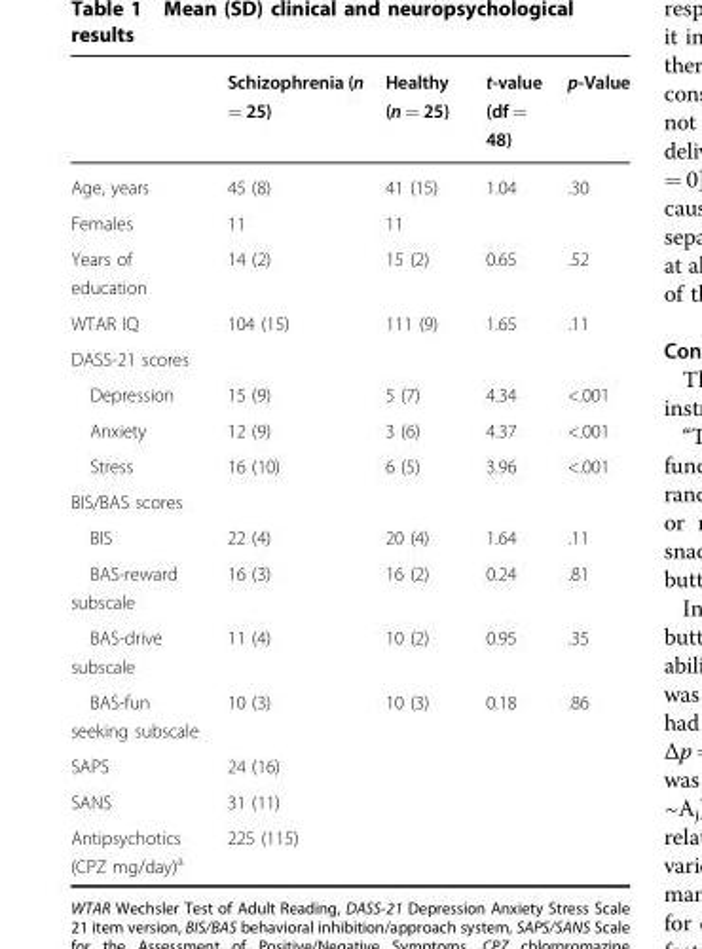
<table><thead><tr><td></td><td>Schizophrenia (n = 25)</td><td>Healthy (n = 25)</td><td>t-value (df = 48)</td><td>p-Value</td></tr></thead><tbody><tr><td>Age, years</td><td>45 (8)</td><td>41 (15)</td><td>1.04</td><td>.30</td></tr><tr><td>Females</td><td>11</td><td>11</td><td></td><td></td></tr><tr><td>Years of education</td><td>14 (2)</td><td>15 (2)</td><td>0.65</td><td>.52</td></tr><tr><td>WTAR IQ</td><td>104 (15)</td><td>111 (9)</td><td>1.65</td><td>.11</td></tr><tr><td colspan="5">DASS-21 scores</td></tr><tr><td>Depression</td><td>15 (9)</td><td>5 (7)</td><td>4.34</td><td>&lt;.001</td></tr><tr><td>Anxiety</td><td>12 (9)</td><td>3 (6)</td><td>4.37</td><td>&lt;.001</td></tr><tr><td>Stress</td><td>16 (10)</td><td>6 (5)</td><td>3.96</td><td>&lt;.001</td></tr><tr><td colspan="5">BIS/BAS scores</td></tr><tr><td>BIS</td><td>22 (4)</td><td>20 (4)</td><td>1.64</td><td>.11</td></tr><tr><td>BAS-reward subscale</td><td>16 (3)</td><td>16 (2)</td><td>0.24</td><td>.81</td></tr><tr><td>BAS-drive subscale</td><td>11 (4)</td><td>10 (2)</td><td>0.95</td><td>.35</td></tr><tr><td>BAS-fun seeking subscale</td><td>10 (3)</td><td>10 (3)</td><td>0.18</td><td>.86</td></tr><tr><td>SAPS</td><td>24 (16)</td><td></td><td></td><td></td></tr><tr><td>SANS</td><td>31 (11)</td><td></td><td></td><td></td></tr><tr><td>Antipsychotics (CPZ mg/day)<sup>a</sup></td><td>225 (115)</td><td></td><td></td><td></td></tr></tbody></table>